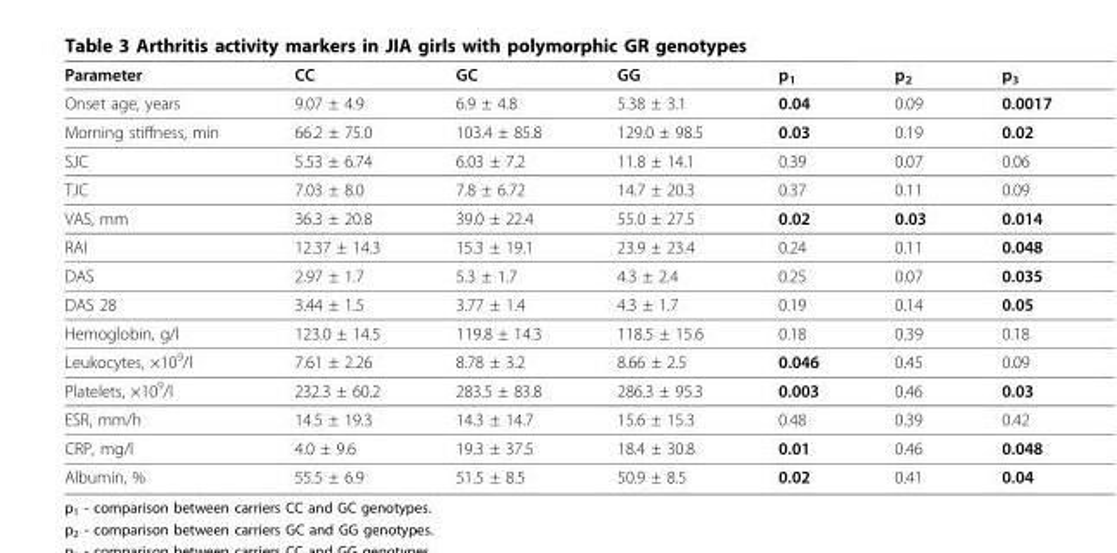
<table><thead><tr><td>Parameter</td><td>CC</td><td>GC</td><td>GG</td><td>p<sub>1</sub></td><td>p<sub>2</sub></td><td>p<sub>3</sub></td></tr></thead><tbody><tr><td>Onset age, years</td><td>9.07 ± 4.9</td><td>6.9 ± 4.8</td><td>5.38 ± 3.1</td><td>0.04</td><td>0.09</td><td>0.0017</td></tr><tr><td>Morning stiffness, min</td><td>66.2 ± 75.0</td><td>103.4 ± 85.8</td><td>129.0 ± 98.5</td><td>0.03</td><td>0.19</td><td>0.02</td></tr><tr><td>SJC</td><td>5.53 ± 6.74</td><td>6.03 ± 7.2</td><td>11.8 ± 14.1</td><td>0.39</td><td>0.07</td><td>0.06</td></tr><tr><td>TJC</td><td>7.03 ± 8.0</td><td>7.8 ± 6.72</td><td>14.7 ± 20.3</td><td>0.37</td><td>0.11</td><td>0.09</td></tr><tr><td>VAS, mm</td><td>36.3 ± 20.8</td><td>39.0 ± 22.4</td><td>55.0 ± 27.5</td><td>0.02</td><td>0.03</td><td>0.014</td></tr><tr><td>RAI</td><td>12.37 ± 14.3</td><td>15.3 ± 19.1</td><td>23.9 ± 23.4</td><td>0.24</td><td>0.11</td><td>0.048</td></tr><tr><td>DAS</td><td>2.97 ± 1.7</td><td>5.3 ± 1.7</td><td>4.3 ± 2.4</td><td>0.25</td><td>0.07</td><td>0.035</td></tr><tr><td>DAS 28</td><td>3.44 ± 1.5</td><td>3.77 ± 1.4</td><td>4.3 ± 1.7</td><td>0.19</td><td>0.14</td><td>0.05</td></tr><tr><td>Hemoglobin, g/l</td><td>123.0 ± 14.5</td><td>119.8 ± 14.3</td><td>118.5 ± 15.6</td><td>0.18</td><td>0.39</td><td>0.18</td></tr><tr><td>Leukocytes, ×10<sup>9</sup>/l</td><td>7.61 ± 2.26</td><td>8.78 ± 3.2</td><td>8.66 ± 2.5</td><td>0.046</td><td>0.45</td><td>0.09</td></tr><tr><td>Platelets, ×10<sup>9</sup>/l</td><td>232.3 ± 60.2</td><td>283.5 ± 83.8</td><td>286.3 ± 95.3</td><td>0.003</td><td>0.46</td><td>0.03</td></tr><tr><td>ESR, mm/h</td><td>14.5 ± 19.3</td><td>14.3 ± 14.7</td><td>15.6 ± 15.3</td><td>0.48</td><td>0.39</td><td>0.42</td></tr><tr><td>CRP, mg/l</td><td>4.0 ± 9.6</td><td>19.3 ± 37.5</td><td>18.4 ± 30.8</td><td>0.01</td><td>0.46</td><td>0.048</td></tr><tr><td>Albumin, %</td><td>55.5 ± 6.9</td><td>51.5 ± 8.5</td><td>50.9 ± 8.5</td><td>0.02</td><td>0.41</td><td>0.04</td></tr></tbody></table>